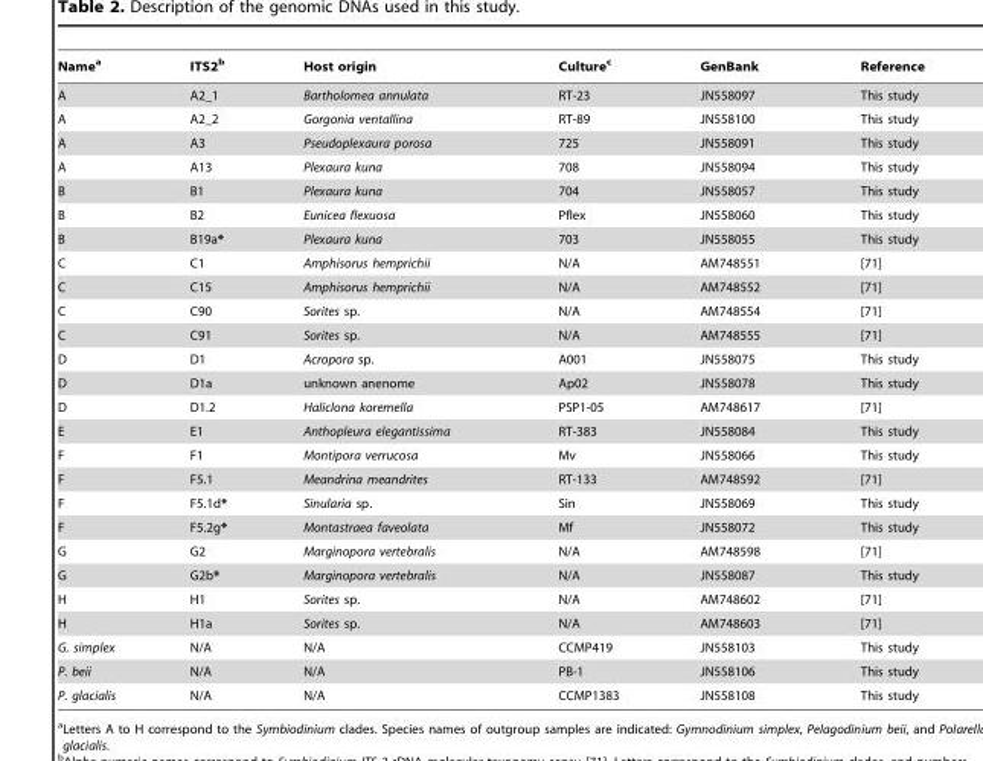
<table><thead><tr><td>Name<sup>a</sup></td><td>ITS2<sup>b</sup></td><td>Host origin</td><td>Culture<sup>c</sup></td><td>GenBank</td><td>Reference</td></tr></thead><tbody><tr><td>A</td><td>A2_1</td><td>Bartholomea annulata</td><td>RT-23</td><td>JN558097</td><td>This study</td></tr><tr><td>A</td><td>A2_2</td><td>Gorgonia ventallina</td><td>RT-89</td><td>JN558100</td><td>This study</td></tr><tr><td>A</td><td>A3</td><td>Pseudoplexaura porosa</td><td>725</td><td>JN558091</td><td>This study</td></tr><tr><td>A</td><td>A13</td><td>Plexaura kuna</td><td>708</td><td>JN558094</td><td>This study</td></tr><tr><td>B</td><td>B1</td><td>Plexaura kuna</td><td>704</td><td>JN558057</td><td>This study</td></tr><tr><td>B</td><td>B2</td><td>Eunicea flexuosa</td><td>Pflex</td><td>JN558060</td><td>This study</td></tr><tr><td>B</td><td>B19a*</td><td>Plexaura kuna</td><td>703</td><td>JN558055</td><td>This study</td></tr><tr><td>C</td><td>C1</td><td>Amphisorus hemprichii</td><td>N/A</td><td>AM748551</td><td>[71]</td></tr><tr><td>C</td><td>C15</td><td>Amphisorus hemprichii</td><td>N/A</td><td>AM748552</td><td>[71]</td></tr><tr><td>C</td><td>C90</td><td>Sorites sp.</td><td>N/A</td><td>AM748554</td><td>[71]</td></tr><tr><td>C</td><td>C91</td><td>Sorites sp.</td><td>N/A</td><td>AM748555</td><td>[71]</td></tr><tr><td>D</td><td>D1</td><td>Acropora sp.</td><td>A001</td><td>JN558075</td><td>This study</td></tr><tr><td>D</td><td>D1a</td><td>unknown anenome</td><td>Ap02</td><td>JN558078</td><td>This study</td></tr><tr><td>D</td><td>D1.2</td><td>Haliclona koremella</td><td>PSP1-05</td><td>AM748617</td><td>[71]</td></tr><tr><td>E</td><td>E1</td><td>Anthopleura elegantissima</td><td>RT-383</td><td>JN558084</td><td>This study</td></tr><tr><td>F</td><td>F1</td><td>Montipora verrucosa</td><td>Mv</td><td>JN558066</td><td>This study</td></tr><tr><td>F</td><td>F5.1</td><td>Meandrina meandrites</td><td>RT-133</td><td>AM748592</td><td>[71]</td></tr><tr><td>F</td><td>F5.1d*</td><td>Sinularia sp.</td><td>Sin</td><td>JN558069</td><td>This study</td></tr><tr><td>F</td><td>F5.2g*</td><td>Montastraea faveolata</td><td>Mf</td><td>JN558072</td><td>This study</td></tr><tr><td>G</td><td>G2</td><td>Marginopora vertebralis</td><td>N/A</td><td>AM748598</td><td>[71]</td></tr><tr><td>G</td><td>G2b*</td><td>Marginopora vertebralis</td><td>N/A</td><td>JN558087</td><td>This study</td></tr><tr><td>H</td><td>H1</td><td>Sorites sp.</td><td>N/A</td><td>AM748602</td><td>[71]</td></tr><tr><td>H</td><td>H1a</td><td>Sorites sp.</td><td>N/A</td><td>AM748603</td><td>[71]</td></tr><tr><td>G. simplex</td><td>N/A</td><td>N/A</td><td>CCMP419</td><td>JN558103</td><td>This study</td></tr><tr><td>P. beii</td><td>N/A</td><td>N/A</td><td>PB-1</td><td>JN558106</td><td>This study</td></tr><tr><td>P. glacialis</td><td>N/A</td><td>N/A</td><td>CCMP1383</td><td>JN558108</td><td>This study</td></tr></tbody></table>